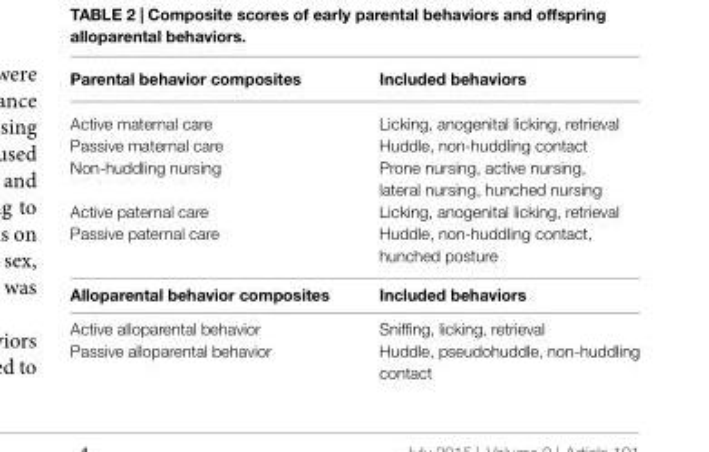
<table><thead><tr><td>Parental behavior composites</td><td>Included behaviors</td></tr></thead><tbody><tr><td>Active maternal care</td><td>Licking, anogenital licking, retrieval</td></tr><tr><td>Passive maternal care</td><td>Huddle, non-huddling contact</td></tr><tr><td>Non-huddling nursing</td><td>Prone nursing, active nursing, lateral nursing, hunched nursing</td></tr><tr><td>Active paternal care</td><td>Licking, anogenital licking, retrieval</td></tr><tr><td>Passive paternal care</td><td>Huddle, non-huddling contact, hunched posture</td></tr><tr><td>Alloparental behavior composites</td><td>Included behaviors</td></tr><tr><td>Active alloparental behavior</td><td>Sniffing, licking, retrieval</td></tr><tr><td>Passive alloparental behavior</td><td>Huddle, pseudohuddle, non-huddling contact</td></tr></tbody></table>